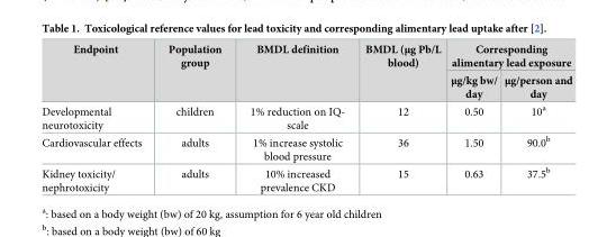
<table><thead><tr><td rowspan="2">Endpoint</td><td rowspan="2">Population group</td><td rowspan="2">BMDL definition</td><td rowspan="2">BMDL (μg Pb/L blood)</td><td colspan="2">Corresponding alimentary lead exposure</td></tr><tr><td>μg/kg bw/ day</td><td>μg/person and day</td></tr></thead><tbody><tr><td>Developmental neurotoxicity</td><td>children</td><td>1% reduction on IQ- scale</td><td>12</td><td>0.50</td><td>10<sup>a</sup></td></tr><tr><td>Cardiovascular effects</td><td>adults</td><td>1% increase systolic blood pressure</td><td>36</td><td>1.50</td><td>90.0<sup>b</sup></td></tr><tr><td>Kidney toxicity/ nephrotoxicity</td><td>adults</td><td>10% increased prevalence CKD</td><td>15</td><td>0.63</td><td>37.5<sup>b</sup></td></tr></tbody></table>